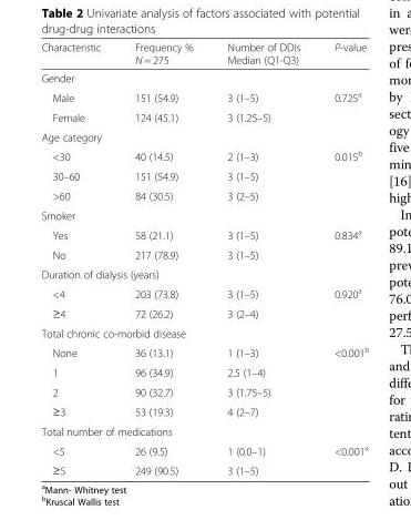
<table><thead><tr><td>Characteristic</td><td>Frequency % N = 275</td><td>Number of DDIs Median (Q1-Q3)</td><td>P-value</td></tr></thead><tbody><tr><td colspan="4">Gender</td></tr><tr><td>Male</td><td>151 (54.9)</td><td>3 (1–5)</td><td rowspan="2">0.725<sup>a</sup></td></tr><tr><td>Female</td><td>124 (45.1)</td><td>3 (1.25–5)</td></tr><tr><td colspan="4">Age category</td></tr><tr><td>&lt;30</td><td>40 (14.5)</td><td>2 (1–3)</td><td rowspan="3">0.015<sup>b</sup></td></tr><tr><td>30–60</td><td>151 (54.9)</td><td>3 (1–5)</td></tr><tr><td>&gt;60</td><td>84 (30.5)</td><td>3 (2–5)</td></tr><tr><td colspan="4">Smoker</td></tr><tr><td>Yes</td><td>58 (21.1)</td><td>3 (1–5)</td><td rowspan="2">0.834<sup>a</sup></td></tr><tr><td>No</td><td>217 (78.9)</td><td>3 (1–5)</td></tr><tr><td colspan="4">Duration of dialysis (years)</td></tr><tr><td>&lt;4</td><td>203 (73.8)</td><td>3 (1–5)</td><td rowspan="2">0.920<sup>a</sup></td></tr><tr><td>≥4</td><td>72 (26.2)</td><td>3 (2–4)</td></tr><tr><td colspan="4">Total chronic co-morbid disease</td></tr><tr><td>None</td><td>36 (13.1)</td><td>1 (1–3)</td><td rowspan="4">&lt;0.001<sup>b</sup></td></tr><tr><td>1</td><td>96 (34.9)</td><td>2.5 (1–4)</td></tr><tr><td>2</td><td>90 (32.7)</td><td>3 (1.75–5)</td></tr><tr><td>≥3</td><td>53 (19.3)</td><td>4 (2–7)</td></tr><tr><td colspan="4">Total number of medications</td></tr><tr><td>&lt;5</td><td>26 (9.5)</td><td>1 (0.0–1)</td><td rowspan="2">&lt;0.001<sup>a</sup></td></tr><tr><td>≥5</td><td>249 (90.5)</td><td>3 (1–5)</td></tr></tbody></table>